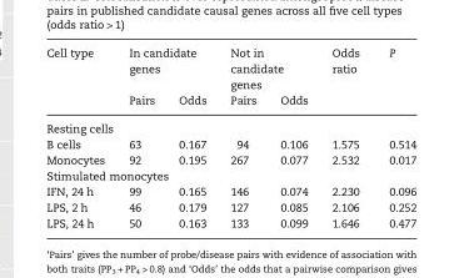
<table><thead><tr><td rowspan="2">Cell type</td><td colspan="2">In candidate genes</td><td colspan="2">Not in candidate genes</td><td rowspan="2">Odds ratio</td><td rowspan="2">P</td></tr><tr><td>Pairs</td><td>Odds</td><td>Pairs</td><td>Odds</td></tr></thead><tbody><tr><td colspan="7">Resting cells</td></tr><tr><td>B cells</td><td>63</td><td>0.167</td><td>94</td><td>0.106</td><td>1.575</td><td>0.514</td></tr><tr><td>Monocytes</td><td>92</td><td>0.195</td><td>267</td><td>0.077</td><td>2.532</td><td>0.017</td></tr><tr><td colspan="7">Stimulated monocytes</td></tr><tr><td>IFN, 24 h</td><td>99</td><td>0.165</td><td>146</td><td>0.074</td><td>2.230</td><td>0.096</td></tr><tr><td>LPS, 2 h</td><td>46</td><td>0.179</td><td>127</td><td>0.085</td><td>2.106</td><td>0.252</td></tr><tr><td>LPS, 24 h</td><td>50</td><td>0.163</td><td>133</td><td>0.099</td><td>1.646</td><td>0.477</td></tr></tbody></table>